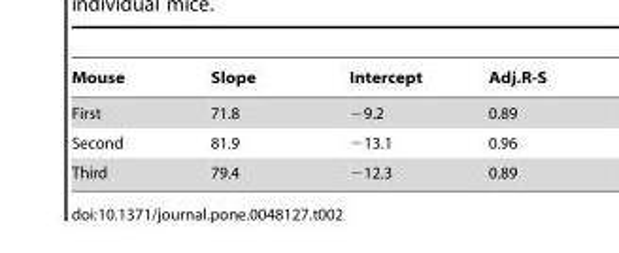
<table><thead><tr><td>Mouse</td><td>Slope</td><td>Intercept</td><td>Adj.R-S</td></tr></thead><tbody><tr><td>First</td><td>71.8</td><td>−9.2</td><td>0.89</td></tr><tr><td>Second</td><td>81.9</td><td>−13.1</td><td>0.96</td></tr><tr><td>Third</td><td>79.4</td><td>−12.3</td><td>0.89</td></tr></tbody></table>